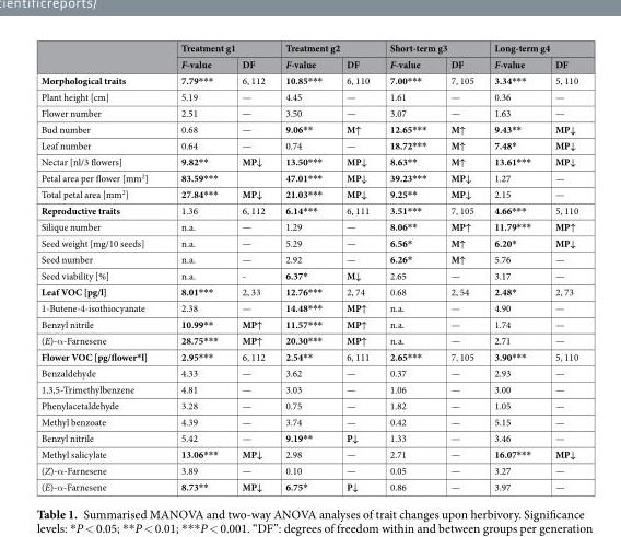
<table><thead><tr><td rowspan="2"></td><td colspan="2">Treatment g1</td><td colspan="2">Treatment g2</td><td colspan="2">Short-term g3</td><td colspan="2">Long-term g4</td></tr><tr><td>F-value</td><td>DF</td><td>F-value</td><td>DF</td><td>F-value</td><td>DF</td><td>F-value</td><td>DF</td></tr></thead><tbody><tr><td>Morphological traits</td><td>7.79***</td><td>6, 112</td><td>10.85***</td><td>6, 110</td><td>7.00***</td><td>7, 105</td><td>3.34***</td><td>5, 110</td></tr><tr><td>Plant height [cm]</td><td>5.19</td><td>—</td><td>4.45</td><td>—</td><td>1.61</td><td>—</td><td>0.36</td><td>—</td></tr><tr><td>Flower number</td><td>2.51</td><td>—</td><td>3.50</td><td>—</td><td>3.07</td><td>—</td><td>1.63</td><td>—</td></tr><tr><td>Bud number</td><td>0.68</td><td>—</td><td>9.06**</td><td>M↑</td><td>12.65***</td><td>M↑</td><td>9.43**</td><td>MP↓</td></tr><tr><td>Leaf number</td><td>0.64</td><td>—</td><td>0.74</td><td>—</td><td>18.72***</td><td>M↑</td><td>7.48*</td><td>MP↓</td></tr><tr><td>Nectar [nl/3 flowers]</td><td>9.82**</td><td>MP↓</td><td>13.50***</td><td>MP↓</td><td>8.63**</td><td>M↑</td><td>13.61***</td><td>MP↓</td></tr><tr><td>Petal area per flower [mm<sup>2</sup>]</td><td>83.59***</td><td></td><td>47.01***</td><td>MP↓</td><td>39.23***</td><td>MP↓</td><td>1.27</td><td>—</td></tr><tr><td>Total petal area [mm<sup>2</sup>]</td><td>27.84***</td><td>MP↓</td><td>21.03***</td><td>MP↓</td><td>9.25**</td><td>MP↓</td><td>2.15</td><td>—</td></tr><tr><td>Reproductive traits</td><td>1.36</td><td>6, 112</td><td>6.14***</td><td>6, 111</td><td>3.51***</td><td>7, 105</td><td>4.66***</td><td>5, 110</td></tr><tr><td>Silique number</td><td>n.a.</td><td>—</td><td>1.29</td><td>—</td><td>8.06**</td><td>MP↑</td><td>11.79***</td><td>MP↑</td></tr><tr><td>Seed weight [mg/10 seeds]</td><td>n.a.</td><td>—</td><td>5.29</td><td>—</td><td>6.56*</td><td>M↑</td><td>6.20*</td><td>MP↓</td></tr><tr><td>Seed number</td><td>n.a.</td><td>—</td><td>2.92</td><td>—</td><td>6.26*</td><td>M↑</td><td>5.76</td><td>—</td></tr><tr><td>Seed viability [%]</td><td>n.a.</td><td>-</td><td>6.37*</td><td>M↓</td><td>2.65</td><td>—</td><td>3.17</td><td>—</td></tr><tr><td>Leaf VOC [pg/l]</td><td>8.01***</td><td>2, 33</td><td>12.76***</td><td>2, 74</td><td>0.68</td><td>2, 54</td><td>2.48*</td><td>2, 73</td></tr><tr><td>1-Butene-4-isothiocyanate</td><td>2.38</td><td>—</td><td>14.48***</td><td>MP↑</td><td>n.a.</td><td>—</td><td>4.90</td><td>—</td></tr><tr><td>Benzyl nitrile</td><td>10.99**</td><td>MP↑</td><td>11.57***</td><td>MP↑</td><td>n.a.</td><td>—</td><td>1.74</td><td>—</td></tr><tr><td>(E)-α-Farnesene</td><td>28.75***</td><td>MP↑</td><td>20.30***</td><td>MP↑</td><td>n.a.</td><td>—</td><td>2.71</td><td>—</td></tr><tr><td>Flower VOC [pg/flower*l]</td><td>2.95***</td><td>6, 112</td><td>2.54**</td><td>6, 111</td><td>2.65***</td><td>7, 105</td><td>3.90***</td><td>5, 110</td></tr><tr><td>Benzaldehyde</td><td>4.33</td><td>—</td><td>3.62</td><td>—</td><td>0.37</td><td>—</td><td>2.93</td><td>—</td></tr><tr><td>1,3,5-Trimethylbenzene</td><td>4.81</td><td>—</td><td>3.03</td><td>—</td><td>1.06</td><td>—</td><td>3.00</td><td>—</td></tr><tr><td>Phenylacetaldehyde</td><td>3.28</td><td>—</td><td>0.75</td><td>—</td><td>1.82</td><td>—</td><td>1.05</td><td>—</td></tr><tr><td>Methyl benzoate</td><td>4.39</td><td>—</td><td>3.74</td><td>—</td><td>0.42</td><td>—</td><td>5.15</td><td>—</td></tr><tr><td>Benzyl nitrile</td><td>5.42</td><td>—</td><td>9.19**</td><td>P↓</td><td>1.33</td><td>—</td><td>3.46</td><td>—</td></tr><tr><td>Methyl salicylate</td><td>13.06***</td><td>MP↓</td><td>2.98</td><td>—</td><td>2.71</td><td>—</td><td>16.07***</td><td>MP↓</td></tr><tr><td>(Z)-α-Farnesene</td><td>3.89</td><td>—</td><td>0.10</td><td>—</td><td>0.05</td><td>—</td><td>3.27</td><td>—</td></tr><tr><td>(E)-α-Farnesene</td><td>8.73**</td><td>MP↓</td><td>6.75*</td><td>P↓</td><td>0.86</td><td>—</td><td>3.97</td><td>—</td></tr></tbody></table>